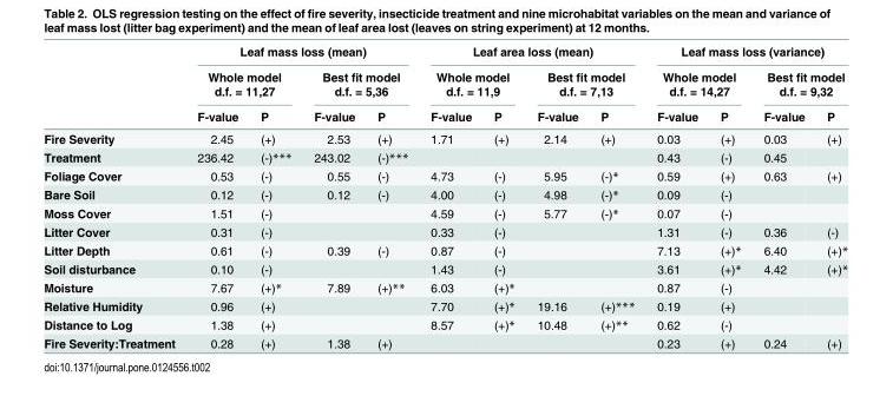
<table><thead><tr><td rowspan="3"></td><td colspan="4">Leaf mass loss (mean)</td><td colspan="4">Leaf area loss (mean)</td><td colspan="4">Leaf mass loss (variance)</td></tr><tr><td colspan="2">Whole model d.f. = 11,27</td><td colspan="2">Best fit model d.f. = 5,36</td><td colspan="2">Whole model d.f. = 11,9</td><td colspan="2">Best fit model d.f. = 7,13</td><td colspan="2">Whole model d.f. = 14,27</td><td colspan="2">Best fit model d.f. = 9,32</td></tr><tr><td>F-value</td><td>P</td><td>F-value</td><td>P</td><td>F-value</td><td>P</td><td>F-value</td><td>P</td><td>F-value</td><td>P</td><td>F-value</td><td>P</td></tr></thead><tbody><tr><td>Fire Severity</td><td>2.45</td><td>(+)</td><td>2.53</td><td>(+)</td><td>1.71</td><td>(+)</td><td>2.14</td><td>(+)</td><td>0.03</td><td>(+)</td><td>0.03</td><td>(+)</td></tr><tr><td>Treatment</td><td>236.42</td><td>(-)***</td><td>243.02</td><td>(-)***</td><td></td><td></td><td></td><td></td><td>0.43</td><td>(-)</td><td>0.45</td><td></td></tr><tr><td>Foliage Cover</td><td>0.53</td><td>(-)</td><td>0.55</td><td>(-)</td><td>4.73</td><td>(-)</td><td>5.95</td><td>(-)*</td><td>0.59</td><td>(+)</td><td>0.63</td><td>(+)</td></tr><tr><td>Bare Soil</td><td>0.12</td><td>(-)</td><td>0.12</td><td>(-)</td><td>4.00</td><td>(-)</td><td>4.98</td><td>(-)*</td><td>0.09</td><td>(-)</td><td></td><td></td></tr><tr><td>Moss Cover</td><td>1.51</td><td>(-)</td><td></td><td></td><td>4.59</td><td>(-)</td><td>5.77</td><td>(-)*</td><td>0.07</td><td>(-)</td><td></td><td></td></tr><tr><td>Litter Cover</td><td>0.31</td><td>(-)</td><td></td><td></td><td>0.33</td><td>(-)</td><td></td><td></td><td>1.31</td><td>(-)</td><td>0.36</td><td>(-)</td></tr><tr><td>Litter Depth</td><td>0.61</td><td>(-)</td><td>0.39</td><td>(-)</td><td>0.87</td><td>(-)</td><td></td><td></td><td>7.13</td><td>(+)*</td><td>6.40</td><td>(+)*</td></tr><tr><td>Soil disturbance</td><td>0.10</td><td>(-)</td><td></td><td></td><td>1.43</td><td>(-)</td><td></td><td></td><td>3.61</td><td>(+)*</td><td>4.42</td><td>(+)*</td></tr><tr><td>Moisture</td><td>7.67</td><td>(+)*</td><td>7.89</td><td>(+)**</td><td>6.03</td><td>(+)*</td><td></td><td></td><td>0.87</td><td>(-)</td><td></td><td></td></tr><tr><td>Relative Humidity</td><td>0.96</td><td>(+)</td><td></td><td></td><td>7.70</td><td>(+)*</td><td>19.16</td><td>(+)***</td><td>0.19</td><td>(+)</td><td></td><td></td></tr><tr><td>Distance to Log</td><td>1.38</td><td>(+)</td><td></td><td></td><td>8.57</td><td>(+)*</td><td>10.48</td><td>(+)**</td><td>0.62</td><td>(-)</td><td></td><td></td></tr><tr><td>Fire Severity:Treatment</td><td>0.28</td><td>(+)</td><td>1.38</td><td>(+)</td><td></td><td></td><td></td><td></td><td>0.23</td><td>(+)</td><td>0.24</td><td>(+)</td></tr></tbody></table>